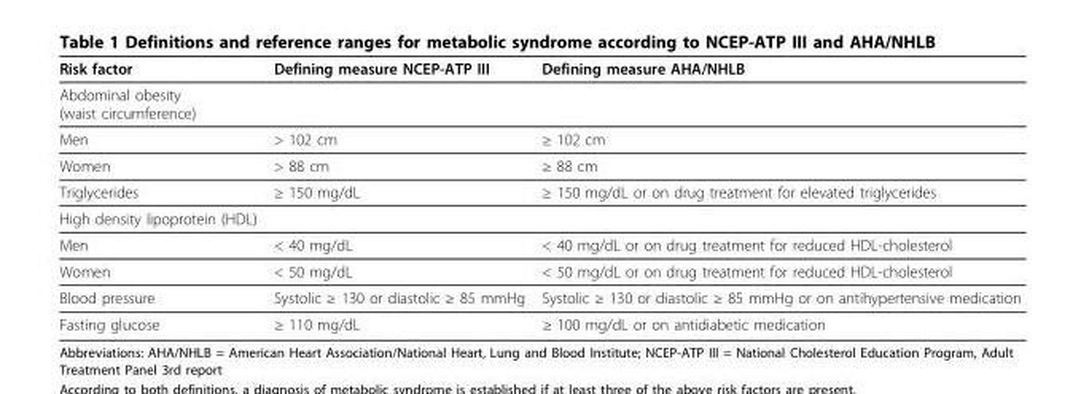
<table><thead><tr><td>Risk factor</td><td>Defining measure NCEP-ATP III</td><td>Defining measure AHA/NHLB</td></tr></thead><tbody><tr><td colspan="3">Abdominal obesity (waist circumference)</td></tr><tr><td>Men</td><td>&gt; 102 cm</td><td>≥ 102 cm</td></tr><tr><td>Women</td><td>&gt; 88 cm</td><td>≥ 88 cm</td></tr><tr><td>Triglycerides</td><td>≥ 150 mg/dL</td><td>≥ 150 mg/dL or on drug treatment for elevated triglycerides</td></tr><tr><td colspan="3">High density lipoprotein (HDL)</td></tr><tr><td>Men</td><td>&lt; 40 mg/dL</td><td>&lt; 40 mg/dL or on drug treatment for reduced HDL-cholesterol</td></tr><tr><td>Women</td><td>&lt; 50 mg/dL</td><td>&lt; 50 mg/dL or on drug treatment for reduced HDL-cholesterol</td></tr><tr><td>Blood pressure</td><td>Systolic ≥ 130 or diastolic ≥ 85 mmHg</td><td>Systolic ≥ 130 or diastolic ≥ 85 mmHg or on antihypertensive medication</td></tr><tr><td>Fasting glucose</td><td>≥ 110 mg/dL</td><td>≥ 100 mg/dL or on antidiabetic medication</td></tr></tbody></table>